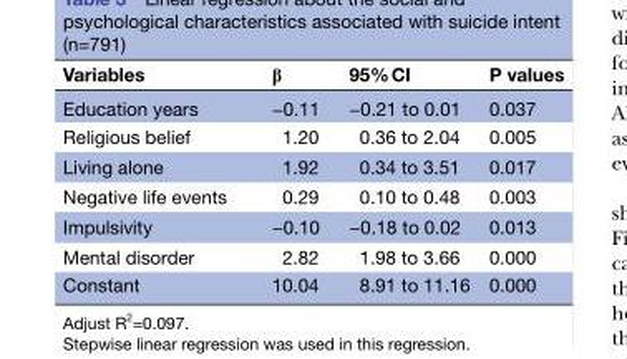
<table><thead><tr><td>Variables</td><td>β</td><td>95% CI</td><td>P values</td></tr></thead><tbody><tr><td>Education years</td><td>−0.11</td><td>−0.21 to 0.01</td><td>0.037</td></tr><tr><td>Religious belief</td><td>1.20</td><td>0.36 to 2.04</td><td>0.005</td></tr><tr><td>Living alone</td><td>1.92</td><td>0.34 to 3.51</td><td>0.017</td></tr><tr><td>Negative life events</td><td>0.29</td><td>0.10 to 0.48</td><td>0.003</td></tr><tr><td>Impulsivity</td><td>−0.10</td><td>−0.18 to 0.02</td><td>0.013</td></tr><tr><td>Mental disorder</td><td>2.82</td><td>1.98 to 3.66</td><td>0.000</td></tr><tr><td>Constant</td><td>10.04</td><td>8.91 to 11.16</td><td>0.000</td></tr></tbody></table>